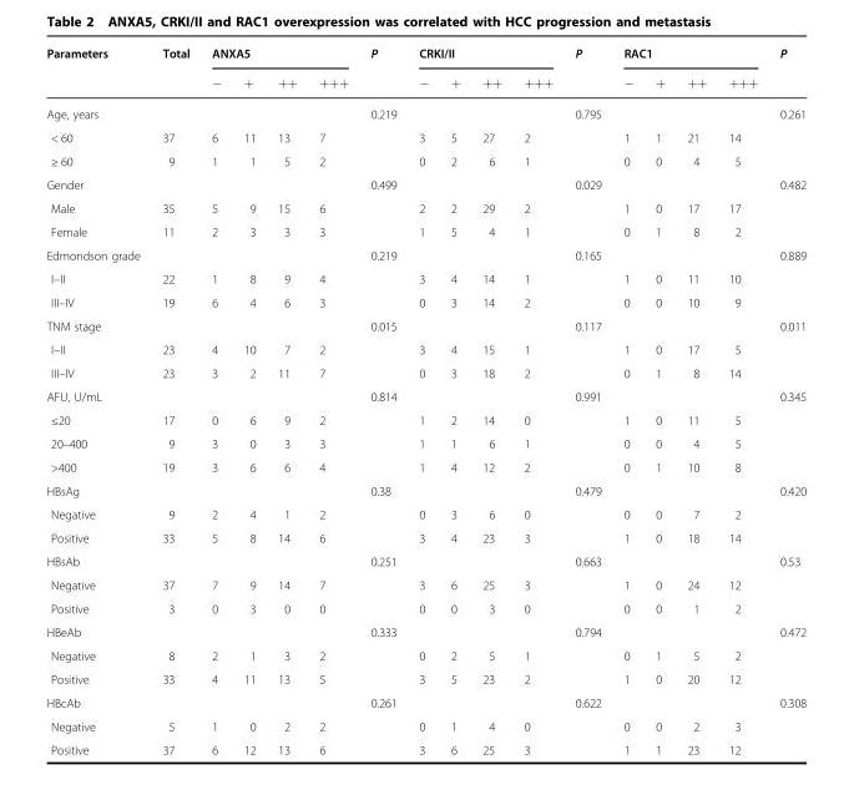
<table><thead><tr><td rowspan="2">Parameters</td><td rowspan="2">Total</td><td colspan="4">ANXA5</td><td rowspan="2">P</td><td colspan="4">CRKI/II</td><td rowspan="2">P</td><td colspan="4">RAC1</td><td rowspan="2">P</td></tr><tr><td>−</td><td>+</td><td>++</td><td>+++</td><td>−</td><td>+</td><td>++</td><td>+++</td><td>−</td><td>+</td><td>++</td><td>+++</td></tr></thead><tbody><tr><td>Age, years</td><td></td><td></td><td></td><td></td><td></td><td>0.219</td><td></td><td></td><td></td><td></td><td>0.795</td><td></td><td></td><td></td><td></td><td>0.261</td></tr><tr><td>&lt; 60</td><td>37</td><td>6</td><td>11</td><td>13</td><td>7</td><td></td><td>3</td><td>5</td><td>27</td><td>2</td><td></td><td>1</td><td>1</td><td>21</td><td>14</td><td></td></tr><tr><td>≥ 60</td><td>9</td><td>1</td><td>1</td><td>5</td><td>2</td><td></td><td>0</td><td>2</td><td>6</td><td>1</td><td></td><td>0</td><td>0</td><td>4</td><td>5</td><td></td></tr><tr><td>Gender</td><td></td><td></td><td></td><td></td><td></td><td>0.499</td><td></td><td></td><td></td><td></td><td>0.029</td><td></td><td></td><td></td><td></td><td>0.482</td></tr><tr><td>Male</td><td>35</td><td>5</td><td>9</td><td>15</td><td>6</td><td></td><td>2</td><td>2</td><td>29</td><td>2</td><td></td><td>1</td><td>0</td><td>17</td><td>17</td><td></td></tr><tr><td>Female</td><td>11</td><td>2</td><td>3</td><td>3</td><td>3</td><td></td><td>1</td><td>5</td><td>4</td><td>1</td><td></td><td>0</td><td>1</td><td>8</td><td>2</td><td></td></tr><tr><td>Edmondson grade</td><td></td><td></td><td></td><td></td><td></td><td>0.219</td><td></td><td></td><td></td><td></td><td>0.165</td><td></td><td></td><td></td><td></td><td>0.889</td></tr><tr><td>I–II</td><td>22</td><td>1</td><td>8</td><td>9</td><td>4</td><td></td><td>3</td><td>4</td><td>14</td><td>1</td><td></td><td>1</td><td>0</td><td>11</td><td>10</td><td></td></tr><tr><td>III–IV</td><td>19</td><td>6</td><td>4</td><td>6</td><td>3</td><td></td><td>0</td><td>3</td><td>14</td><td>2</td><td></td><td>0</td><td>0</td><td>10</td><td>9</td><td></td></tr><tr><td>TNM stage</td><td></td><td></td><td></td><td></td><td></td><td>0.015</td><td></td><td></td><td></td><td></td><td>0.117</td><td></td><td></td><td></td><td></td><td>0.011</td></tr><tr><td>I–II</td><td>23</td><td>4</td><td>10</td><td>7</td><td>2</td><td></td><td>3</td><td>4</td><td>15</td><td>1</td><td></td><td>1</td><td>0</td><td>17</td><td>5</td><td></td></tr><tr><td>III–IV</td><td>23</td><td>3</td><td>2</td><td>11</td><td>7</td><td></td><td>0</td><td>3</td><td>18</td><td>2</td><td></td><td>0</td><td>1</td><td>8</td><td>14</td><td></td></tr><tr><td>AFU, U/mL</td><td></td><td></td><td></td><td></td><td></td><td>0.814</td><td></td><td></td><td></td><td></td><td>0.991</td><td></td><td></td><td></td><td></td><td>0.345</td></tr><tr><td>≤20</td><td>17</td><td>0</td><td>6</td><td>9</td><td>2</td><td></td><td>1</td><td>2</td><td>14</td><td>0</td><td></td><td>1</td><td>0</td><td>11</td><td>5</td><td></td></tr><tr><td>20–400</td><td>9</td><td>3</td><td>0</td><td>3</td><td>3</td><td></td><td>1</td><td>1</td><td>6</td><td>1</td><td></td><td>0</td><td>0</td><td>4</td><td>5</td><td></td></tr><tr><td>&gt;400</td><td>19</td><td>3</td><td>6</td><td>6</td><td>4</td><td></td><td>1</td><td>4</td><td>12</td><td>2</td><td></td><td>0</td><td>1</td><td>10</td><td>8</td><td></td></tr><tr><td>HBsAg</td><td></td><td></td><td></td><td></td><td></td><td>0.38</td><td></td><td></td><td></td><td></td><td>0.479</td><td></td><td></td><td></td><td></td><td>0.420</td></tr><tr><td>Negative</td><td>9</td><td>2</td><td>4</td><td>1</td><td>2</td><td></td><td>0</td><td>3</td><td>6</td><td>0</td><td></td><td>0</td><td>0</td><td>7</td><td>2</td><td></td></tr><tr><td>Positive</td><td>33</td><td>5</td><td>8</td><td>14</td><td>6</td><td></td><td>3</td><td>4</td><td>23</td><td>3</td><td></td><td>1</td><td>0</td><td>18</td><td>14</td><td></td></tr><tr><td>HBsAb</td><td></td><td></td><td></td><td></td><td></td><td>0.251</td><td></td><td></td><td></td><td></td><td>0.663</td><td></td><td></td><td></td><td></td><td>0.53</td></tr><tr><td>Negative</td><td>37</td><td>7</td><td>9</td><td>14</td><td>7</td><td></td><td>3</td><td>6</td><td>25</td><td>3</td><td></td><td>1</td><td>0</td><td>24</td><td>12</td><td></td></tr><tr><td>Positive</td><td>3</td><td>0</td><td>3</td><td>0</td><td>0</td><td></td><td>0</td><td>0</td><td>3</td><td>0</td><td></td><td>0</td><td>0</td><td>1</td><td>2</td><td></td></tr><tr><td>HBeAb</td><td></td><td></td><td></td><td></td><td></td><td>0.333</td><td></td><td></td><td></td><td></td><td>0.794</td><td></td><td></td><td></td><td></td><td>0.472</td></tr><tr><td>Negative</td><td>8</td><td>2</td><td>1</td><td>3</td><td>2</td><td></td><td>0</td><td>2</td><td>5</td><td>1</td><td></td><td>0</td><td>1</td><td>5</td><td>2</td><td></td></tr><tr><td>Positive</td><td>33</td><td>4</td><td>11</td><td>13</td><td>5</td><td></td><td>3</td><td>5</td><td>23</td><td>2</td><td></td><td>1</td><td>0</td><td>20</td><td>12</td><td></td></tr><tr><td>HBcAb</td><td></td><td></td><td></td><td></td><td></td><td>0.261</td><td></td><td></td><td></td><td></td><td>0.622</td><td></td><td></td><td></td><td></td><td>0.308</td></tr><tr><td>Negative</td><td>5</td><td>1</td><td>0</td><td>2</td><td>2</td><td></td><td>0</td><td>1</td><td>4</td><td>0</td><td></td><td>0</td><td>0</td><td>2</td><td>3</td><td></td></tr><tr><td>Positive</td><td>37</td><td>6</td><td>12</td><td>13</td><td>6</td><td></td><td>3</td><td>6</td><td>25</td><td>3</td><td></td><td>1</td><td>1</td><td>23</td><td>12</td><td></td></tr></tbody></table>